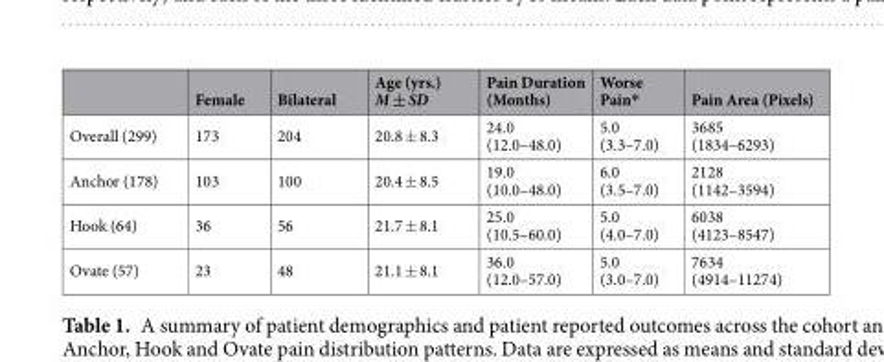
<table><thead><tr><td></td><td>Female</td><td>Bilateral</td><td>Age (yrs.) M ± SD</td><td>Pain Duration (Months)</td><td>Worse Pain*</td><td>Pain Area (Pixels)</td></tr></thead><tbody><tr><td>Overall (299)</td><td>173</td><td>204</td><td>20.8 ± 8.3</td><td>24.0 (12.0–48.0)</td><td>5.0 (3.3–7.0)</td><td>3685 (1834–6293)</td></tr><tr><td>Anchor (178)</td><td>103</td><td>100</td><td>20.4 ± 8.5</td><td>19.0 (10.0–48.0)</td><td>6.0 (3.5–7.0)</td><td>2128 (1142–3594)</td></tr><tr><td>Hook (64)</td><td>36</td><td>56</td><td>21.7 ± 8.1</td><td>25.0 (10.5–60.0)</td><td>5.0 (4.0–7.0)</td><td>6038 (4123–8547)</td></tr><tr><td>Ovate (57)</td><td>23</td><td>48</td><td>21.1 ± 8.1</td><td>36.0 (12.0–57.0)</td><td>5.0 (3.0–7.0)</td><td>7634 (4914–11274)</td></tr></tbody></table>